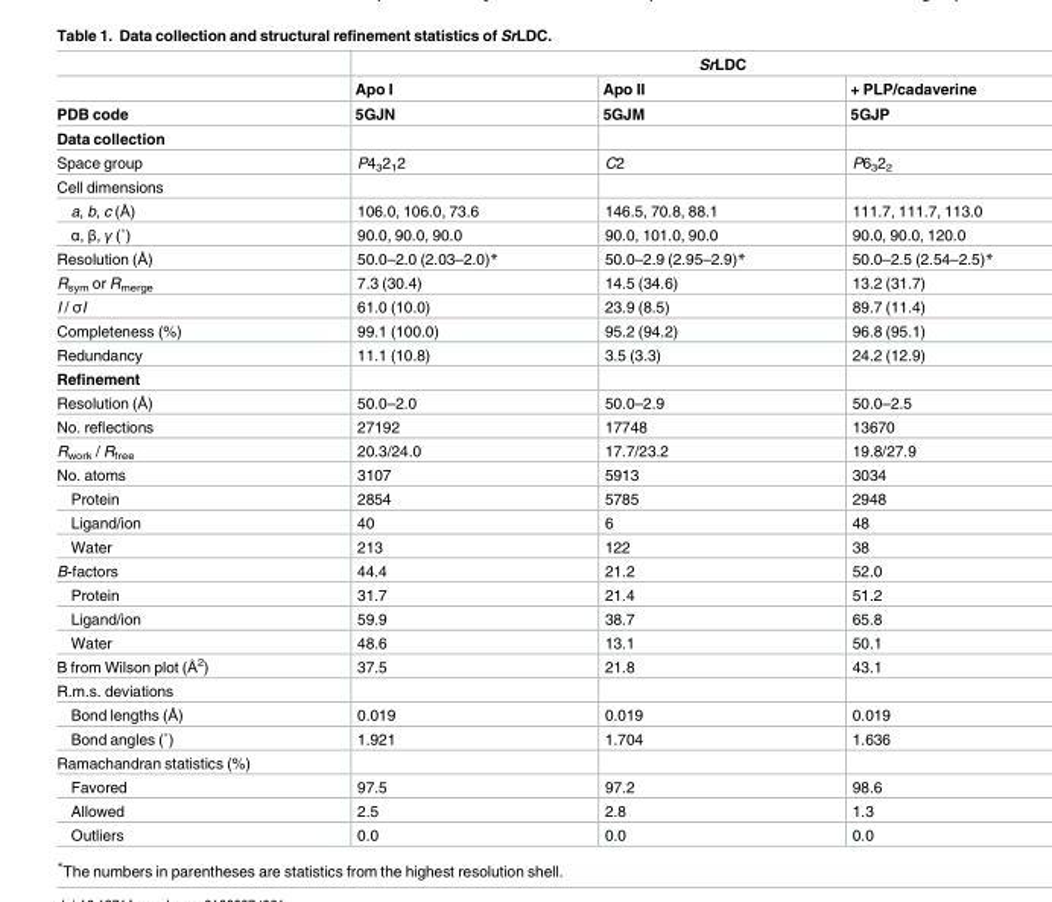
<table><thead><tr><td rowspan="3">PDB code</td><td colspan="3">SrLDC</td></tr><tr><td rowspan="2">Apo I 5GJN</td><td rowspan="2">Apo II 5GJM</td><td rowspan="2">+ PLP/cadaverine 5GJP</td></tr><tr></tr></thead><tbody><tr><td colspan="4">Data collection</td></tr><tr><td>Space group</td><td>P4<sub>3</sub>2<sub>1</sub>2</td><td>C2</td><td>P6<sub>3</sub>2<sub>2</sub></td></tr><tr><td colspan="4">Cell dimensions</td></tr><tr><td>a, b, c (Å)</td><td>106.0, 106.0, 73.6</td><td>146.5, 70.8, 88.1</td><td>111.7, 111.7, 113.0</td></tr><tr><td>α, β, γ (˚)</td><td>90.0, 90.0, 90.0</td><td>90.0, 101.0, 90.0</td><td>90.0, 90.0, 120.0</td></tr><tr><td>Resolution (Å)</td><td>50.0–2.0 (2.03–2.0)*</td><td>50.0–2.9 (2.95–2.9)*</td><td>50.0–2.5 (2.54–2.5)*</td></tr><tr><td>R<sub>sym</sub> or R<sub>merge</sub></td><td>7.3 (30.4)</td><td>14.5 (34.6)</td><td>13.2 (31.7)</td></tr><tr><td>I / σI</td><td>61.0 (10.0)</td><td>23.9 (8.5)</td><td>89.7 (11.4)</td></tr><tr><td>Completeness (%)</td><td>99.1 (100.0)</td><td>95.2 (94.2)</td><td>96.8 (95.1)</td></tr><tr><td>Redundancy</td><td>11.1 (10.8)</td><td>3.5 (3.3)</td><td>24.2 (12.9)</td></tr><tr><td colspan="4">Refinement</td></tr><tr><td>Resolution (Å)</td><td>50.0–2.0</td><td>50.0–2.9</td><td>50.0–2.5</td></tr><tr><td>No. reflections</td><td>27192</td><td>17748</td><td>13670</td></tr><tr><td>R<sub>work</sub> / R<sub>free</sub></td><td>20.3/24.0</td><td>17.7/23.2</td><td>19.8/27.9</td></tr><tr><td>No. atoms</td><td>3107</td><td>5913</td><td>3034</td></tr><tr><td>Protein</td><td>2854</td><td>5785</td><td>2948</td></tr><tr><td>Ligand/ion</td><td>40</td><td>6</td><td>48</td></tr><tr><td>Water</td><td>213</td><td>122</td><td>38</td></tr><tr><td>B-factors</td><td>44.4</td><td>21.2</td><td>52.0</td></tr><tr><td>Protein</td><td>31.7</td><td>21.4</td><td>51.2</td></tr><tr><td>Ligand/ion</td><td>59.9</td><td>38.7</td><td>65.8</td></tr><tr><td>Water</td><td>48.6</td><td>13.1</td><td>50.1</td></tr><tr><td>B from Wilson plot (Å<sup>2</sup>)</td><td>37.5</td><td>21.8</td><td>43.1</td></tr><tr><td colspan="4">R.m.s. deviations</td></tr><tr><td>Bond lengths (Å)</td><td>0.019</td><td>0.019</td><td>0.019</td></tr><tr><td>Bond angles (˚)</td><td>1.921</td><td>1.704</td><td>1.636</td></tr><tr><td colspan="4">Ramachandran statistics (%)</td></tr><tr><td>Favored</td><td>97.5</td><td>97.2</td><td>98.6</td></tr><tr><td>Allowed</td><td>2.5</td><td>2.8</td><td>1.3</td></tr><tr><td>Outliers</td><td>0.0</td><td>0.0</td><td>0.0</td></tr></tbody></table>